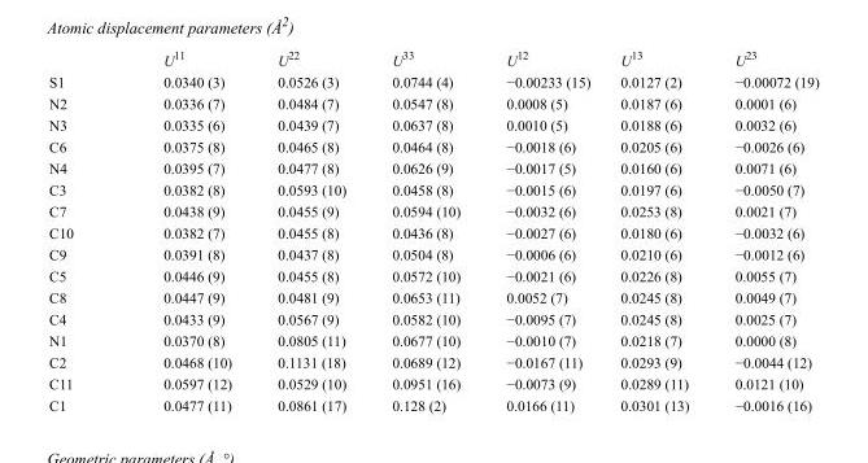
<table><thead><tr><td></td><td>U<sup>11</sup></td><td>U<sup>22</sup></td><td>U<sup>33</sup></td><td>U<sup>12</sup></td><td>U<sup>13</sup></td><td>U<sup>23</sup></td></tr></thead><tbody><tr><td>S1</td><td>0.0340 (3)</td><td>0.0526 (3)</td><td>0.0744 (4)</td><td>−0.00233 (15)</td><td>0.0127 (2)</td><td>−0.00072 (19)</td></tr><tr><td>N2</td><td>0.0336 (7)</td><td>0.0484 (7)</td><td>0.0547 (8)</td><td>0.0008 (5)</td><td>0.0187 (6)</td><td>0.0001 (6)</td></tr><tr><td>N3</td><td>0.0335 (6)</td><td>0.0439 (7)</td><td>0.0637 (8)</td><td>0.0010 (5)</td><td>0.0188 (6)</td><td>0.0032 (6)</td></tr><tr><td>C6</td><td>0.0375 (8)</td><td>0.0465 (8)</td><td>0.0464 (8)</td><td>−0.0018 (6)</td><td>0.0205 (6)</td><td>−0.0026 (6)</td></tr><tr><td>N4</td><td>0.0395 (7)</td><td>0.0477 (8)</td><td>0.0626 (9)</td><td>−0.0017 (5)</td><td>0.0160 (6)</td><td>0.0071 (6)</td></tr><tr><td>C3</td><td>0.0382 (8)</td><td>0.0593 (10)</td><td>0.0458 (8)</td><td>−0.0015 (6)</td><td>0.0197 (6)</td><td>−0.0050 (7)</td></tr><tr><td>C7</td><td>0.0438 (9)</td><td>0.0455 (9)</td><td>0.0594 (10)</td><td>−0.0032 (6)</td><td>0.0253 (8)</td><td>0.0021 (7)</td></tr><tr><td>C10</td><td>0.0382 (7)</td><td>0.0455 (8)</td><td>0.0436 (8)</td><td>−0.0027 (6)</td><td>0.0180 (6)</td><td>−0.0032 (6)</td></tr><tr><td>C9</td><td>0.0391 (8)</td><td>0.0437 (8)</td><td>0.0504 (8)</td><td>−0.0006 (6)</td><td>0.0210 (6)</td><td>−0.0012 (6)</td></tr><tr><td>C5</td><td>0.0446 (9)</td><td>0.0455 (8)</td><td>0.0572 (10)</td><td>−0.0021 (6)</td><td>0.0226 (8)</td><td>0.0055 (7)</td></tr><tr><td>C8</td><td>0.0447 (9)</td><td>0.0481 (9)</td><td>0.0653 (11)</td><td>0.0052 (7)</td><td>0.0245 (8)</td><td>0.0049 (7)</td></tr><tr><td>C4</td><td>0.0433 (9)</td><td>0.0567 (9)</td><td>0.0582 (10)</td><td>−0.0095 (7)</td><td>0.0245 (8)</td><td>0.0025 (7)</td></tr><tr><td>N1</td><td>0.0370 (8)</td><td>0.0805 (11)</td><td>0.0677 (10)</td><td>−0.0010 (7)</td><td>0.0218 (7)</td><td>0.0000 (8)</td></tr><tr><td>C2</td><td>0.0468 (10)</td><td>0.1131 (18)</td><td>0.0689 (12)</td><td>−0.0167 (11)</td><td>0.0293 (9)</td><td>−0.0044 (12)</td></tr><tr><td>C11</td><td>0.0597 (12)</td><td>0.0529 (10)</td><td>0.0951 (16)</td><td>−0.0073 (9)</td><td>0.0289 (11)</td><td>0.0121 (10)</td></tr><tr><td>C1</td><td>0.0477 (11)</td><td>0.0861 (17)</td><td>0.128 (2)</td><td>0.0166 (11)</td><td>0.0301 (13)</td><td>−0.0016 (16)</td></tr></tbody></table>